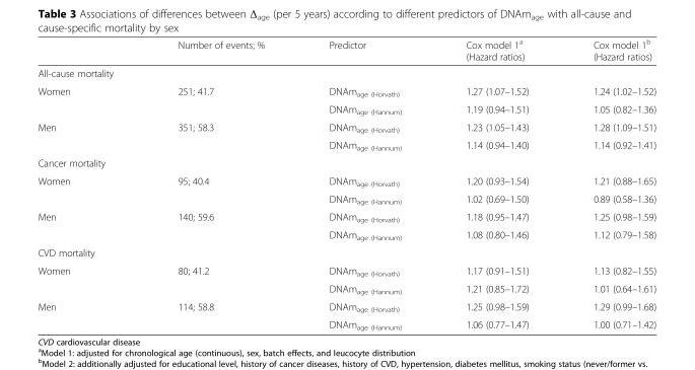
<table><thead><tr><td></td><td>Number of events; %</td><td>Predictor</td><td>Cox model 1<sup>a</sup> (Hazard ratios)</td><td>Cox model 1<sup>b</sup> (Hazard ratios)</td></tr></thead><tbody><tr><td colspan="5">All-cause mortality</td></tr><tr><td rowspan="2">Women</td><td>251; 41.7</td><td>DNAm<sub>age (Horvath)</sub></td><td>1.27 (1.07–1.52)</td><td>1.24 (1.02–1.52)</td></tr><tr><td></td><td>DNAm<sub>age (Hannum)</sub></td><td>1.19 (0.94–1.51)</td><td>1.05 (0.82–1.36)</td></tr><tr><td rowspan="2">Men</td><td>351; 58.3</td><td>DNAm<sub>age (Horvath)</sub></td><td>1.23 (1.05–1.43)</td><td>1.28 (1.09–1.51)</td></tr><tr><td></td><td>DNAm<sub>age (Hannum)</sub></td><td>1.14 (0.94–1.40)</td><td>1.14 (0.92–1.41)</td></tr><tr><td colspan="5">Cancer mortality</td></tr><tr><td rowspan="2">Women</td><td>95; 40.4</td><td>DNAm<sub>age (Horvath)</sub></td><td>1.20 (0.93–1.54)</td><td>1.21 (0.88–1.65)</td></tr><tr><td></td><td>DNAm<sub>age (Hannum)</sub></td><td>1.02 (0.69–1.50)</td><td>0.89 (0.58–1.36)</td></tr><tr><td rowspan="2">Men</td><td>140; 59.6</td><td>DNAm<sub>age (Horvath)</sub></td><td>1.18 (0.95–1.47)</td><td>1.25 (0.98–1.59)</td></tr><tr><td></td><td>DNAm<sub>age (Hannum)</sub></td><td>1.08 (0.80–1.46)</td><td>1.12 (0.79–1.58)</td></tr><tr><td colspan="5">CVD mortality</td></tr><tr><td rowspan="2">Women</td><td>80; 41.2</td><td>DNAm<sub>age (Horvath)</sub></td><td>1.17 (0.91–1.51)</td><td>1.13 (0.82–1.55)</td></tr><tr><td></td><td>DNAm<sub>age (Hannum)</sub></td><td>1.21 (0.85–1.72)</td><td>1.01 (0.64–1.61)</td></tr><tr><td rowspan="2">Men</td><td>114; 58.8</td><td>DNAm<sub>age (Horvath)</sub></td><td>1.25 (0.98–1.59)</td><td>1.29 (0.99–1.68)</td></tr><tr><td></td><td>DNAm<sub>age (Hannum)</sub></td><td>1.06 (0.77–1.47)</td><td>1.00 (0.71–1.42)</td></tr></tbody></table>